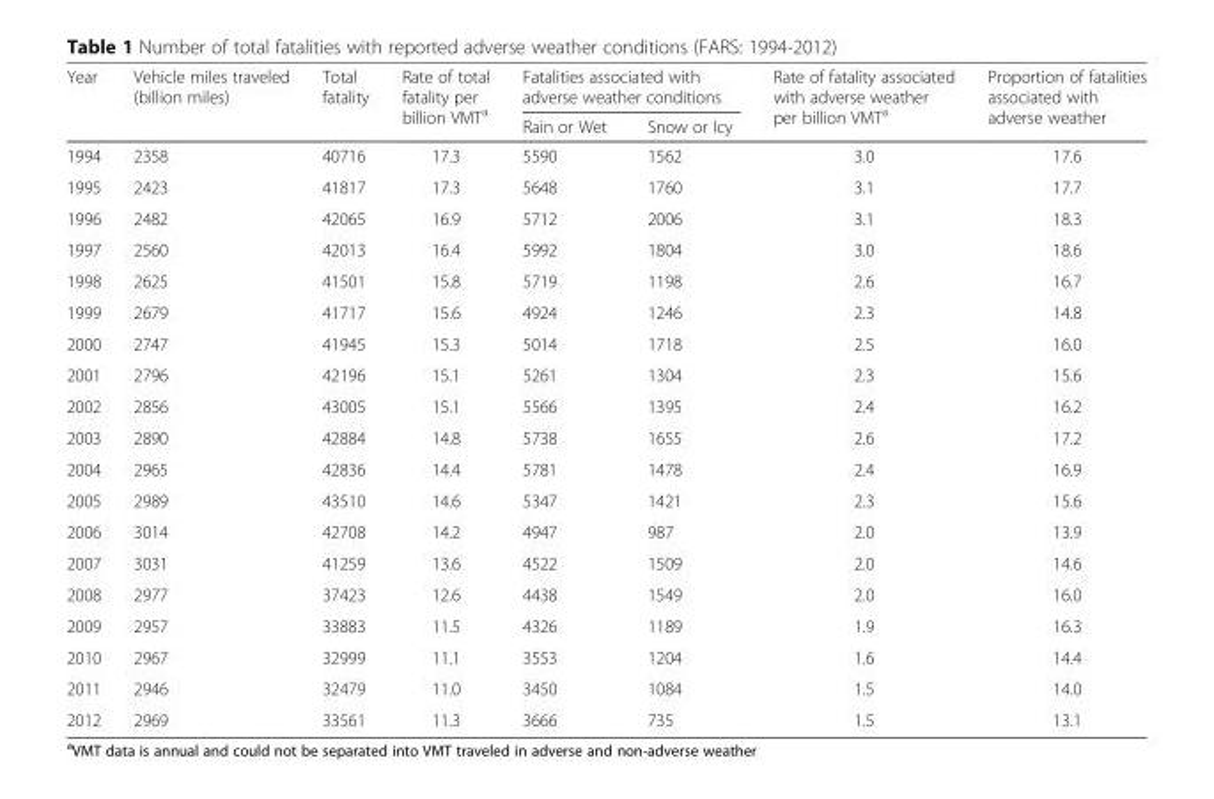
<table><thead><tr><td rowspan="2">Year</td><td rowspan="2">Vehicle miles traveled (billion miles)</td><td rowspan="2">Total fatality</td><td rowspan="2">Rate of total fatality per billion VMT<sup>a</sup></td><td colspan="2">Fatalities associated with adverse weather conditions</td><td rowspan="2">Rate of fatality associated with adverse weather per billion VMT<sup>a</sup></td><td rowspan="2">Proportion of fatalities associated with adverse weather</td></tr><tr><td>Rain or Wet</td><td>Snow or Icy</td></tr></thead><tbody><tr><td>1994</td><td>2358</td><td>40716</td><td>17.3</td><td>5590</td><td>1562</td><td>3.0</td><td>17.6</td></tr><tr><td>1995</td><td>2423</td><td>41817</td><td>17.3</td><td>5648</td><td>1760</td><td>3.1</td><td>17.7</td></tr><tr><td>1996</td><td>2482</td><td>42065</td><td>16.9</td><td>5712</td><td>2006</td><td>3.1</td><td>18.3</td></tr><tr><td>1997</td><td>2560</td><td>42013</td><td>16.4</td><td>5992</td><td>1804</td><td>3.0</td><td>18.6</td></tr><tr><td>1998</td><td>2625</td><td>41501</td><td>15.8</td><td>5719</td><td>1198</td><td>2.6</td><td>16.7</td></tr><tr><td>1999</td><td>2679</td><td>41717</td><td>15.6</td><td>4924</td><td>1246</td><td>2.3</td><td>14.8</td></tr><tr><td>2000</td><td>2747</td><td>41945</td><td>15.3</td><td>5014</td><td>1718</td><td>2.5</td><td>16.0</td></tr><tr><td>2001</td><td>2796</td><td>42196</td><td>15.1</td><td>5261</td><td>1304</td><td>2.3</td><td>15.6</td></tr><tr><td>2002</td><td>2856</td><td>43005</td><td>15.1</td><td>5566</td><td>1395</td><td>2.4</td><td>16.2</td></tr><tr><td>2003</td><td>2890</td><td>42884</td><td>14.8</td><td>5738</td><td>1655</td><td>2.6</td><td>17.2</td></tr><tr><td>2004</td><td>2965</td><td>42836</td><td>14.4</td><td>5781</td><td>1478</td><td>2.4</td><td>16.9</td></tr><tr><td>2005</td><td>2989</td><td>43510</td><td>14.6</td><td>5347</td><td>1421</td><td>2.3</td><td>15.6</td></tr><tr><td>2006</td><td>3014</td><td>42708</td><td>14.2</td><td>4947</td><td>987</td><td>2.0</td><td>13.9</td></tr><tr><td>2007</td><td>3031</td><td>41259</td><td>13.6</td><td>4522</td><td>1509</td><td>2.0</td><td>14.6</td></tr><tr><td>2008</td><td>2977</td><td>37423</td><td>12.6</td><td>4438</td><td>1549</td><td>2.0</td><td>16.0</td></tr><tr><td>2009</td><td>2957</td><td>33883</td><td>11.5</td><td>4326</td><td>1189</td><td>1.9</td><td>16.3</td></tr><tr><td>2010</td><td>2967</td><td>32999</td><td>11.1</td><td>3553</td><td>1204</td><td>1.6</td><td>14.4</td></tr><tr><td>2011</td><td>2946</td><td>32479</td><td>11.0</td><td>3450</td><td>1084</td><td>1.5</td><td>14.0</td></tr><tr><td>2012</td><td>2969</td><td>33561</td><td>11.3</td><td>3666</td><td>735</td><td>1.5</td><td>13.1</td></tr></tbody></table>